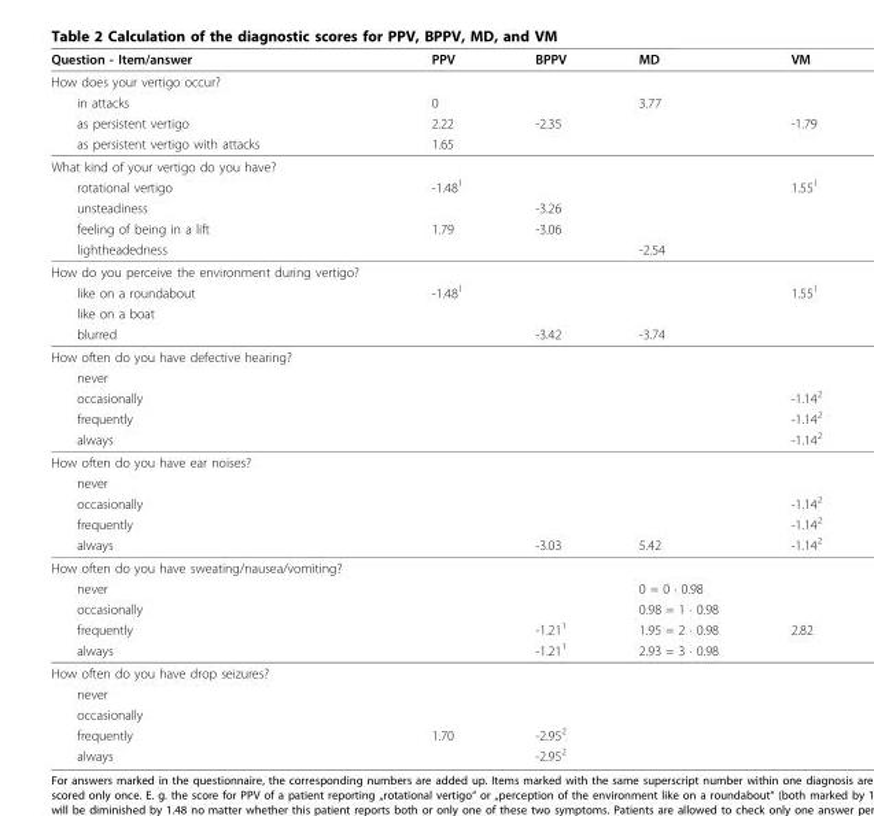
<table><thead><tr><td>Question - Item/answer</td><td>PPV</td><td>BPPV</td><td>MD</td><td>VM</td></tr></thead><tbody><tr><td colspan="5">How does your vertigo occur?</td></tr><tr><td>in attacks</td><td>0</td><td></td><td>3.77</td><td></td></tr><tr><td>as persistent vertigo</td><td>2.22</td><td>-2.35</td><td></td><td>-1.79</td></tr><tr><td>as persistent vertigo with attacks</td><td>1.65</td><td></td><td></td><td></td></tr><tr><td colspan="5">What kind of your vertigo do you have?</td></tr><tr><td>rotational vertigo</td><td>-1.48<sup>1</sup></td><td></td><td></td><td>1.55<sup>1</sup></td></tr><tr><td>unsteadiness</td><td></td><td>-3.26</td><td></td><td></td></tr><tr><td>feeling of being in a lift</td><td>1.79</td><td>-3.06</td><td></td><td></td></tr><tr><td>lightheadedness</td><td></td><td></td><td>-2.54</td><td></td></tr><tr><td colspan="5">How do you perceive the environment during vertigo?</td></tr><tr><td>like on a roundabout</td><td>-1.48<sup>1</sup></td><td></td><td></td><td>1.55<sup>1</sup></td></tr><tr><td colspan="5">like on a boat</td></tr><tr><td>blurred</td><td></td><td>-3.42</td><td>-3.74</td><td></td></tr><tr><td colspan="5">How often do you have defective hearing?</td></tr><tr><td colspan="5">never</td></tr><tr><td>occasionally</td><td></td><td></td><td></td><td>-1.14<sup>2</sup></td></tr><tr><td>frequently</td><td></td><td></td><td></td><td>-1.14<sup>2</sup></td></tr><tr><td>always</td><td></td><td></td><td></td><td>-1.14<sup>2</sup></td></tr><tr><td colspan="5">How often do you have ear noises?</td></tr><tr><td colspan="5">never</td></tr><tr><td>occasionally</td><td></td><td></td><td></td><td>-1.14<sup>2</sup></td></tr><tr><td>frequently</td><td></td><td></td><td></td><td>-1.14<sup>2</sup></td></tr><tr><td>always</td><td></td><td>-3.03</td><td>5.42</td><td>-1.14<sup>2</sup></td></tr><tr><td colspan="5">How often do you have sweating/nausea/vomiting?</td></tr><tr><td>never</td><td></td><td></td><td>0 = 0 · 0.98</td><td></td></tr><tr><td>occasionally</td><td></td><td></td><td>0.98 = 1 · 0.98</td><td></td></tr><tr><td>frequently</td><td></td><td>-1.21<sup>1</sup></td><td>1.95 = 2 · 0.98</td><td>2.82</td></tr><tr><td>always</td><td></td><td>-1.21<sup>1</sup></td><td>2.93 = 3 · 0.98</td><td></td></tr><tr><td colspan="5">How often do you have drop seizures?</td></tr><tr><td colspan="5">never</td></tr><tr><td colspan="5">occasionally</td></tr><tr><td>frequently</td><td>1.70</td><td>-2.95<sup>2</sup></td><td></td><td></td></tr><tr><td>always</td><td></td><td>-2.95<sup>2</sup></td><td></td><td></td></tr></tbody></table>